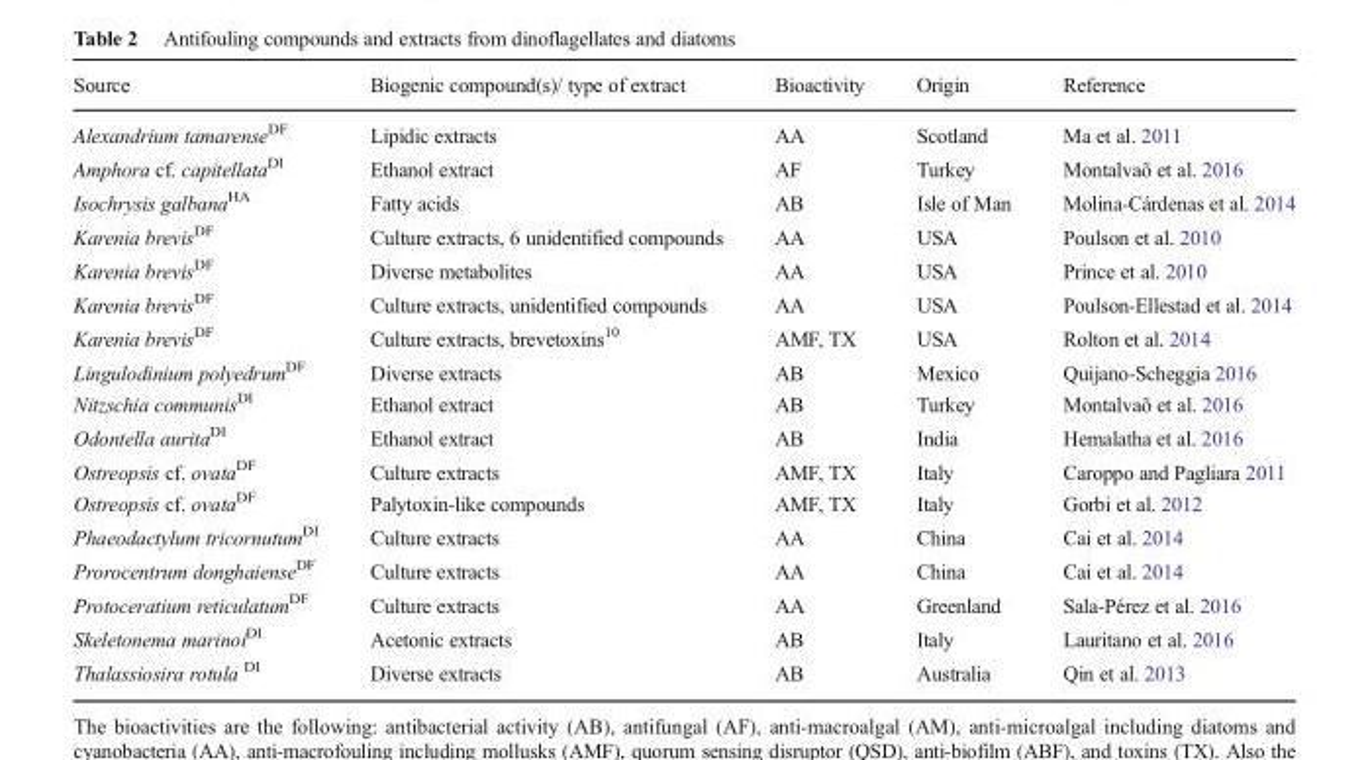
<table><thead><tr><td>Source</td><td>Biogenic compound(s)/ type of extract</td><td>Bioactivity</td><td>Origin</td><td>Reference</td></tr></thead><tbody><tr><td>Alexandrium tamarense<sup>DF</sup></td><td>Lipidic extracts</td><td>AA</td><td>Scotland</td><td>Ma et al. 2011</td></tr><tr><td>Amphora cf. capitellata<sup>DI</sup></td><td>Ethanol extract</td><td>AF</td><td>Turkey</td><td>Montalvaõ et al. 2016</td></tr><tr><td>Isochrysis galbana<sup>HA</sup></td><td>Fatty acids</td><td>AB</td><td>Isle of Man</td><td>Molina-Cárdenas et al. 2014</td></tr><tr><td>Karenia brevis<sup>DF</sup></td><td>Culture extracts, 6 unidentified compounds</td><td>AA</td><td>USA</td><td>Poulson et al. 2010</td></tr><tr><td>Karenia brevis<sup>DF</sup></td><td>Diverse metabolites</td><td>AA</td><td>USA</td><td>Prince et al. 2010</td></tr><tr><td>Karenia brevis<sup>DF</sup></td><td>Culture extracts, unidentified compounds</td><td>AA</td><td>USA</td><td>Poulson-Ellestad et al. 2014</td></tr><tr><td>Karenia brevis<sup>DF</sup></td><td>Culture extracts, brevetoxins<sup>10</sup></td><td>AMF, TX</td><td>USA</td><td>Rolton et al. 2014</td></tr><tr><td>Lingulodinium polyedrum<sup>DF</sup></td><td>Diverse extracts</td><td>AB</td><td>Mexico</td><td>Quijano-Scheggia 2016</td></tr><tr><td>Nitzschia communis<sup>DI</sup></td><td>Ethanol extract</td><td>AB</td><td>Turkey</td><td>Montalvaõ et al. 2016</td></tr><tr><td>Odontella aurita<sup>DI</sup></td><td>Ethanol extract</td><td>AB</td><td>India</td><td>Hemalatha et al. 2016</td></tr><tr><td>Ostreopsis cf. ovata<sup>DF</sup></td><td>Culture extracts</td><td>AMF, TX</td><td>Italy</td><td>Caroppo and Pagliara 2011</td></tr><tr><td>Ostreopsis cf. ovata<sup>DF</sup></td><td>Palytoxin-like compounds</td><td>AMF, TX</td><td>Italy</td><td>Gorbi et al. 2012</td></tr><tr><td>Phaeodactylum tricornutum<sup>DI</sup></td><td>Culture extracts</td><td>AA</td><td>China</td><td>Cai et al. 2014</td></tr><tr><td>Prorocentrum donghaiense<sup>DF</sup></td><td>Culture extracts</td><td>AA</td><td>China</td><td>Cai et al. 2014</td></tr><tr><td>Protoceratium reticulatum<sup>DF</sup></td><td>Culture extracts</td><td>AA</td><td>Greenland</td><td>Sala-Pérez et al. 2016</td></tr><tr><td>Skeletonema marinoi<sup>DI</sup></td><td>Acetonic extracts</td><td>AB</td><td>Italy</td><td>Lauritano et al. 2016</td></tr><tr><td>Thalassiosira rotula <sup>DI</sup></td><td>Diverse extracts</td><td>AB</td><td>Australia</td><td>Qin et al. 2013</td></tr></tbody></table>